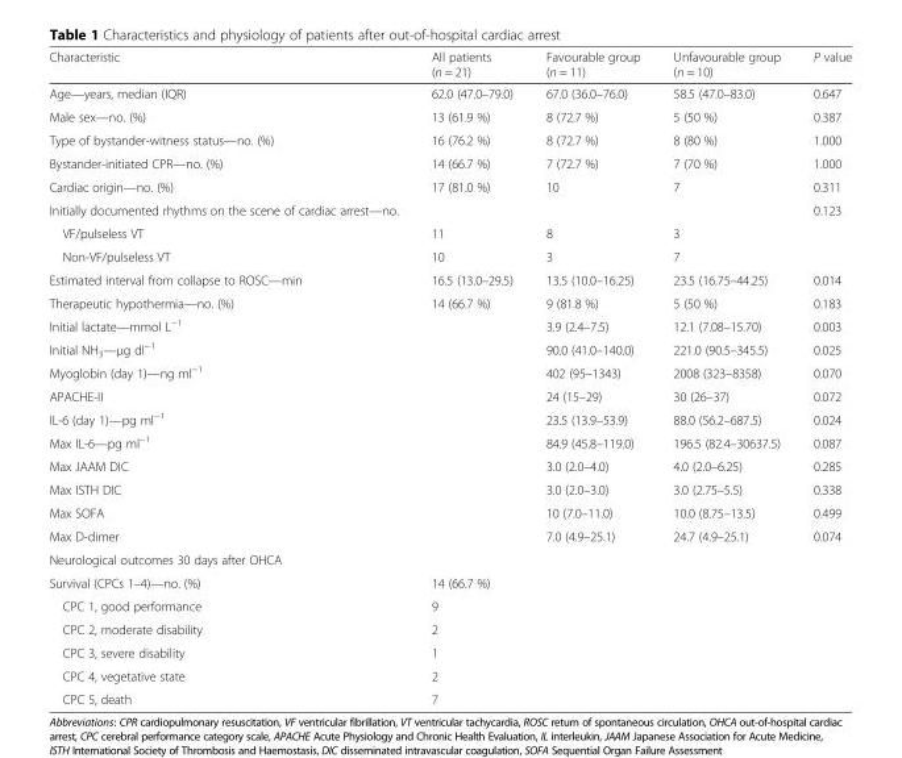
<table><thead><tr><td>Characteristic</td><td>All patients (n = 21)</td><td>Favourable group (n = 11)</td><td>Unfavourable group (n = 10)</td><td>P value</td></tr></thead><tbody><tr><td>Age—years, median (IQR)</td><td>62.0 (47.0–79.0)</td><td>67.0 (36.0–76.0)</td><td>58.5 (47.0–83.0)</td><td>0.647</td></tr><tr><td>Male sex—no. (%)</td><td>13 (61.9 %)</td><td>8 (72.7 %)</td><td>5 (50 %)</td><td>0.387</td></tr><tr><td>Type of bystander-witness status—no. (%)</td><td>16 (76.2 %)</td><td>8 (72.7 %)</td><td>8 (80 %)</td><td>1.000</td></tr><tr><td>Bystander-initiated CPR—no. (%)</td><td>14 (66.7 %)</td><td>7 (72.7 %)</td><td>7 (70 %)</td><td>1.000</td></tr><tr><td>Cardiac origin—no. (%)</td><td>17 (81.0 %)</td><td>10</td><td>7</td><td>0.311</td></tr><tr><td>Initially documented rhythms on the scene of cardiac arrest—no.</td><td></td><td></td><td></td><td>0.123</td></tr><tr><td>VF/pulseless VT</td><td>11</td><td>8</td><td>3</td><td></td></tr><tr><td>Non-VF/pulseless VT</td><td>10</td><td>3</td><td>7</td><td></td></tr><tr><td>Estimated interval from collapse to ROSC—min</td><td>16.5 (13.0–29.5)</td><td>13.5 (10.0–16.25)</td><td>23.5 (16.75–44.25)</td><td>0.014</td></tr><tr><td>Therapeutic hypothermia—no. (%)</td><td>14 (66.7 %)</td><td>9 (81.8 %)</td><td>5 (50 %)</td><td>0.183</td></tr><tr><td>Initial lactate—mmol L<sup>−1</sup></td><td></td><td>3.9 (2.4–7.5)</td><td>12.1 (7.08–15.70)</td><td>0.003</td></tr><tr><td>Initial NH<sub>3</sub>—μg dl<sup>−1</sup></td><td></td><td>90.0 (41.0–140.0)</td><td>221.0 (90.5–345.5)</td><td>0.025</td></tr><tr><td>Myoglobin (day 1)—ng ml<sup>−1</sup></td><td></td><td>402 (95–1343)</td><td>2008 (323–8358)</td><td>0.070</td></tr><tr><td>APACHE-II</td><td></td><td>24 (15–29)</td><td>30 (26–37)</td><td>0.072</td></tr><tr><td>IL-6 (day 1)—pg ml<sup>−1</sup></td><td></td><td>23.5 (13.9–53.9)</td><td>88.0 (56.2–687.5)</td><td>0.024</td></tr><tr><td>Max IL-6—pg ml<sup>−1</sup></td><td></td><td>84.9 (45.8–119.0)</td><td>196.5 (82.4–30637.5)</td><td>0.087</td></tr><tr><td>Max JAAM DIC</td><td></td><td>3.0 (2.0–4.0)</td><td>4.0 (2.0–6.25)</td><td>0.285</td></tr><tr><td>Max ISTH DIC</td><td></td><td>3.0 (2.0–3.0)</td><td>3.0 (2.75–5.5)</td><td>0.338</td></tr><tr><td>Max SOFA</td><td></td><td>10 (7.0–11.0)</td><td>10.0 (8.75–13.5)</td><td>0.499</td></tr><tr><td>Max D-dimer</td><td></td><td>7.0 (4.9–25.1)</td><td>24.7 (4.9–25.1)</td><td>0.074</td></tr><tr><td colspan="5">Neurological outcomes 30 days after OHCA</td></tr><tr><td>Survival (CPCs 1–4)—no. (%)</td><td>14 (66.7 %)</td><td></td><td></td><td></td></tr><tr><td>CPC 1, good performance</td><td>9</td><td></td><td></td><td></td></tr><tr><td>CPC 2, moderate disability</td><td>2</td><td></td><td></td><td></td></tr><tr><td>CPC 3, severe disability</td><td>1</td><td></td><td></td><td></td></tr><tr><td>CPC 4, vegetative state</td><td>2</td><td></td><td></td><td></td></tr><tr><td>CPC 5, death</td><td>7</td><td></td><td></td><td></td></tr></tbody></table>